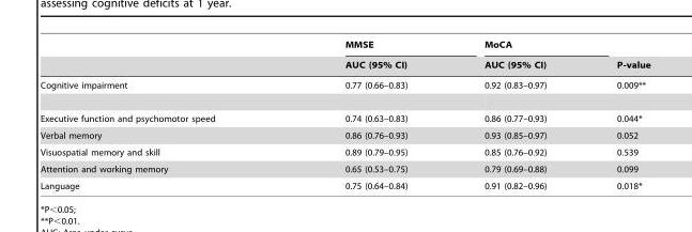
<table><thead><tr><td rowspan="2"></td><td rowspan="2">MMSE AUC (95% CI)</td><td rowspan="2">MoCA AUC (95% CI)</td><td rowspan="2">P-value</td></tr><tr></tr></thead><tbody><tr><td>Cognitive impairment</td><td>0.77 (0.66–0.83)</td><td>0.92 (0.83–0.97)</td><td>0.009**</td></tr><tr><td>Executive function and psychomotor speed</td><td>0.74 (0.63–0.83)</td><td>0.86 (0.77–0.93)</td><td>0.044*</td></tr><tr><td>Verbal memory</td><td>0.86 (0.76–0.93)</td><td>0.93 (0.85–0.97)</td><td>0.052</td></tr><tr><td>Visuospatial memory and skill</td><td>0.89 (0.79–0.95)</td><td>0.85 (0.76–0.92)</td><td>0.539</td></tr><tr><td>Attention and working memory</td><td>0.65 (0.53–0.75)</td><td>0.79 (0.69–0.88)</td><td>0.099</td></tr><tr><td>Language</td><td>0.75 (0.64–0.84)</td><td>0.91 (0.82–0.96)</td><td>0.018*</td></tr></tbody></table>